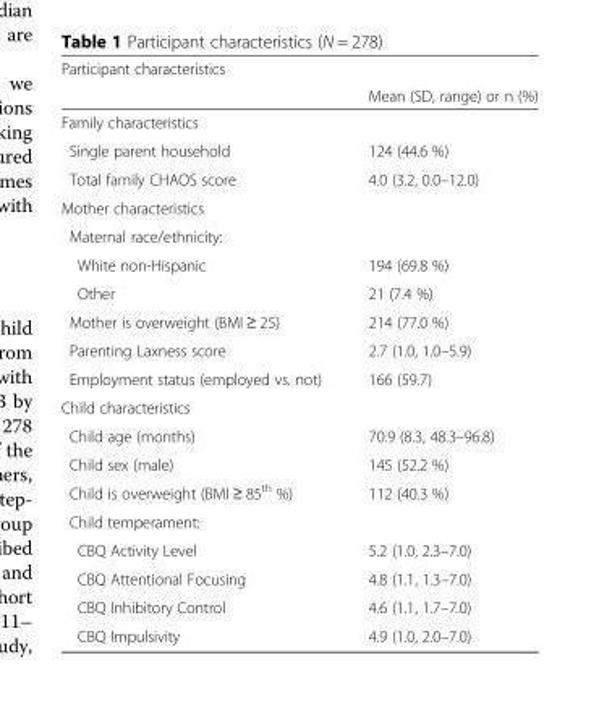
<table><thead><tr><td rowspan="2">Participant characteristics</td><td rowspan="2">Mean (SD, range) or n (%)</td></tr><tr></tr></thead><tbody><tr><td colspan="2">Family characteristics</td></tr><tr><td>Single parent household</td><td>124 (44.6 %)</td></tr><tr><td>Total family CHAOS score</td><td>4.0 (3.2, 0.0–12.0)</td></tr><tr><td colspan="2">Mother characteristics</td></tr><tr><td colspan="2">Maternal race/ethnicity:</td></tr><tr><td>White non-Hispanic</td><td>194 (69.8 %)</td></tr><tr><td>Other</td><td>21 (7.4 %)</td></tr><tr><td>Mother is overweight (BMI ≥ 25)</td><td>214 (77.0 %)</td></tr><tr><td>Parenting Laxness score</td><td>2.7 (1.0, 1.0–5.9)</td></tr><tr><td>Employment status (employed vs. not)</td><td>166 (59.7)</td></tr><tr><td colspan="2">Child characteristics</td></tr><tr><td>Child age (months)</td><td>70.9 (8.3, 48.3–96.8)</td></tr><tr><td>Child sex (male)</td><td>145 (52.2 %)</td></tr><tr><td>Child is overweight (BMI ≥ 85<sup>th</sup> %)</td><td>112 (40.3 %)</td></tr><tr><td colspan="2">Child temperament:</td></tr><tr><td>CBQ Activity Level</td><td>5.2 (1.0, 2.3–7.0)</td></tr><tr><td>CBQ Attentional Focusing</td><td>4.8 (1.1, 1.3–7.0)</td></tr><tr><td>CBQ Inhibitory Control</td><td>4.6 (1.1, 1.7–7.0)</td></tr><tr><td>CBQ Impulsivity</td><td>4.9 (1.0, 2.0–7.0)</td></tr></tbody></table>